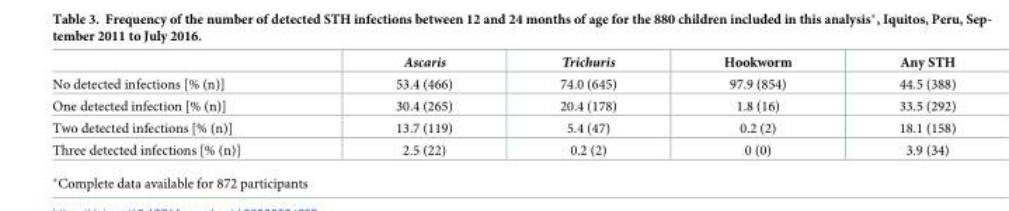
<table><thead><tr><td></td><td>Ascaris</td><td>Trichuris</td><td>Hookworm</td><td>Any STH</td></tr></thead><tbody><tr><td>No detected infections [% (n)]</td><td>53.4 (466)</td><td>74.0 (645)</td><td>97.9 (854)</td><td>44.5 (388)</td></tr><tr><td>One detected infection [% (n)]</td><td>30.4 (265)</td><td>20.4 (178)</td><td>1.8 (16)</td><td>33.5 (292)</td></tr><tr><td>Two detected infections [% (n)]</td><td>13.7 (119)</td><td>5.4 (47)</td><td>0.2 (2)</td><td>18.1 (158)</td></tr><tr><td>Three detected infections [% (n)]</td><td>2.5 (22)</td><td>0.2 (2)</td><td>0 (0)</td><td>3.9 (34)</td></tr></tbody></table>